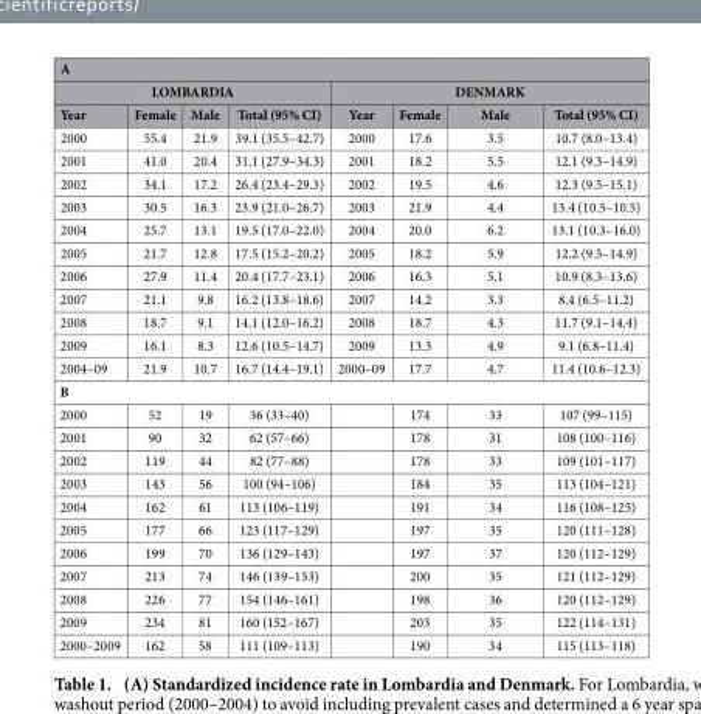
<table><thead><tr><td colspan="8">A</td></tr><tr><td colspan="4">LOMBARDIA</td><td colspan="4">DENMARK</td></tr><tr><td>Year</td><td>Female</td><td>Male</td><td>Total (95% CI)</td><td>Year</td><td>Female</td><td>Male</td><td>Total (95% CI)</td></tr></thead><tbody><tr><td>2000</td><td>55.4</td><td>21.9</td><td>39.1 (35.5–42.7)</td><td>2000</td><td>17.6</td><td>3.5</td><td>10.7 (8.0–13.4)</td></tr><tr><td>2001</td><td>41.0</td><td>20.4</td><td>31.1 (27.9–34.3)</td><td>2001</td><td>18.2</td><td>5.5</td><td>12.1 (9.3–14.9)</td></tr><tr><td>2002</td><td>34.1</td><td>17.2</td><td>26.4 (23.4–29.3)</td><td>2002</td><td>19.5</td><td>4.6</td><td>12.3 (9.5–15.1)</td></tr><tr><td>2003</td><td>30.5</td><td>16.3</td><td>23.9 (21.0–26.7)</td><td>2003</td><td>21.9</td><td>4.4</td><td>13.4 (10.5–10.5)</td></tr><tr><td>2004</td><td>25.7</td><td>13.1</td><td>19.5 (17.0–22.0)</td><td>2004</td><td>20.0</td><td>6.2</td><td>13.1 (10.3–16.0)</td></tr><tr><td>2005</td><td>21.7</td><td>12.8</td><td>17.5 (15.2–20.2)</td><td>2005</td><td>18.2</td><td>5.9</td><td>12.2 (9.5–14.9)</td></tr><tr><td>2006</td><td>27.9</td><td>11.4</td><td>20.4 (17.7–23.1)</td><td>2006</td><td>16.3</td><td>5.1</td><td>10.9 (8.3–13.6)</td></tr><tr><td>2007</td><td>21.1</td><td>9.8</td><td>16.2 (13.8–18.6)</td><td>2007</td><td>14.2</td><td>3.3</td><td>8.4 (6.5–11.2)</td></tr><tr><td>2008</td><td>18.7</td><td>9.1</td><td>14.1 (12.0–16.2)</td><td>2008</td><td>18.7</td><td>4.3</td><td>11.7 (9.1–14.4)</td></tr><tr><td>2009</td><td>16.1</td><td>8.3</td><td>12.6 (10.5–14.7)</td><td>2009</td><td>13.3</td><td>4.9</td><td>9.1 (6.8–11.4)</td></tr><tr><td>2004–09</td><td>21.9</td><td>10.7</td><td>16.7 (14.4–19.1)</td><td>2000–09</td><td>17.7</td><td>4.7</td><td>11.4 (10.6–12.3)</td></tr><tr><td colspan="8">B</td></tr><tr><td>2000</td><td>52</td><td>19</td><td>36 (33–40)</td><td></td><td>174</td><td>33</td><td>107 (99–115)</td></tr><tr><td>2001</td><td>90</td><td>32</td><td>62 (57–66)</td><td></td><td>178</td><td>31</td><td>108 (100–116)</td></tr><tr><td>2002</td><td>119</td><td>44</td><td>82 (77–88)</td><td></td><td>178</td><td>33</td><td>109 (101–117)</td></tr><tr><td>2003</td><td>143</td><td>56</td><td>100 (94–106)</td><td></td><td>184</td><td>35</td><td>113 (104–121)</td></tr><tr><td>2004</td><td>162</td><td>61</td><td>113 (106–119)</td><td></td><td>191</td><td>34</td><td>116 (108–125)</td></tr><tr><td>2005</td><td>177</td><td>66</td><td>123 (117–129)</td><td></td><td>197</td><td>35</td><td>120 (111–128)</td></tr><tr><td>2006</td><td>199</td><td>70</td><td>136 (129–143)</td><td></td><td>197</td><td>37</td><td>120 (112–129)</td></tr><tr><td>2007</td><td>213</td><td>74</td><td>146 (139–153)</td><td></td><td>200</td><td>35</td><td>121 (112–129)</td></tr><tr><td>2008</td><td>226</td><td>77</td><td>154 (146–161)</td><td></td><td>198</td><td>36</td><td>120 (112–129)</td></tr><tr><td>2009</td><td>234</td><td>81</td><td>160 (152–167)</td><td></td><td>203</td><td>35</td><td>122 (114–131)</td></tr><tr><td>2000–2009</td><td>162</td><td>58</td><td>111 (109–113)</td><td></td><td>190</td><td>34</td><td>115 (113–118)</td></tr></tbody></table>